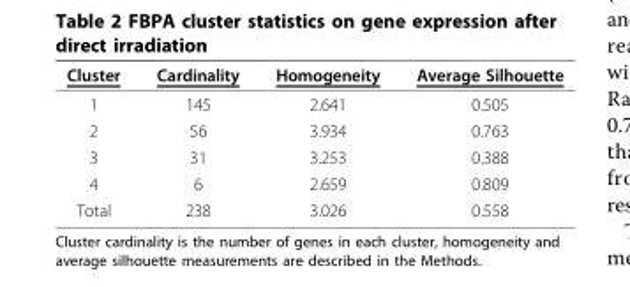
<table><thead><tr><td>Cluster</td><td>Cardinality</td><td>Homogeneity</td><td>Average Silhouette</td></tr></thead><tbody><tr><td>1</td><td>145</td><td>2.641</td><td>0.505</td></tr><tr><td>2</td><td>56</td><td>3.934</td><td>0.763</td></tr><tr><td>3</td><td>31</td><td>3.253</td><td>0.388</td></tr><tr><td>4</td><td>6</td><td>2.659</td><td>0.809</td></tr><tr><td>Total</td><td>238</td><td>3.026</td><td>0.558</td></tr></tbody></table>